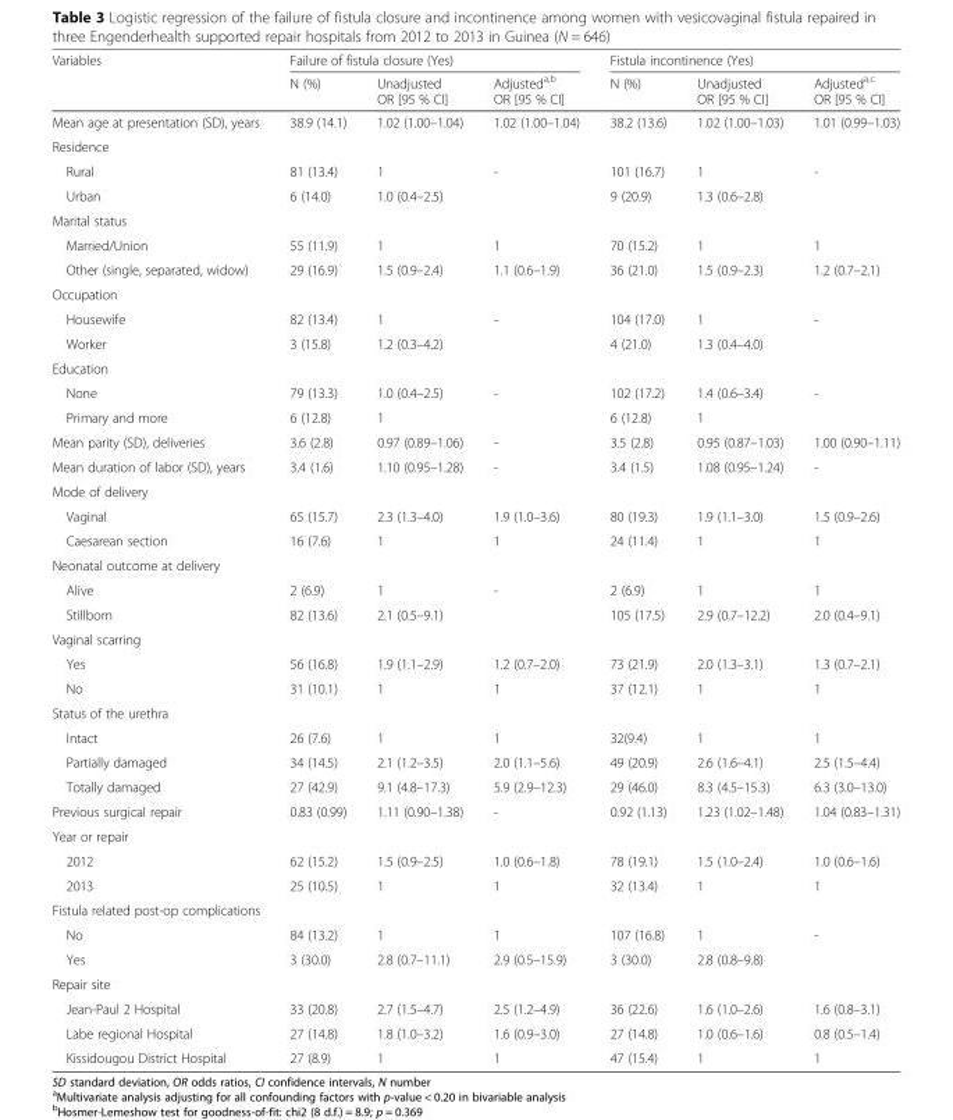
<table><thead><tr><td rowspan="2">Variables</td><td colspan="3">Failure of fistula closure (Yes)</td><td colspan="3">Fistula incontinence (Yes)</td></tr><tr><td>N (%)</td><td>Unadjusted OR [95 % CI]</td><td>Adjusted<sup>a,b</sup> OR [95 % CI]</td><td>N (%)</td><td>Unadjusted OR [95 % CI]</td><td>Adjusted<sup>a,c</sup> OR [95 % CI]</td></tr></thead><tbody><tr><td>Mean age at presentation (SD), years</td><td>38.9 (14.1)</td><td>1.02 (1.00–1.04)</td><td>1.02 (1.00–1.04)</td><td>38.2 (13.6)</td><td>1.02 (1.00–1.03)</td><td>1.01 (0.99–1.03)</td></tr><tr><td colspan="7">Residence</td></tr><tr><td>Rural</td><td>81 (13.4)</td><td>1</td><td rowspan="2">-</td><td>101 (16.7)</td><td>1</td><td rowspan="2">-</td></tr><tr><td>Urban</td><td>6 (14.0)</td><td>1.0 (0.4–2.5)</td><td>9 (20.9)</td><td>1.3 (0.6–2.8)</td></tr><tr><td colspan="7">Marital status</td></tr><tr><td>Married/Union</td><td>55 (11.9)</td><td>1</td><td>1</td><td>70 (15.2)</td><td>1</td><td>1</td></tr><tr><td>Other (single, separated, widow)</td><td>29 (16.9)</td><td>1.5 (0.9–2.4)</td><td>1.1 (0.6–1.9)</td><td>36 (21.0)</td><td>1.5 (0.9–2.3)</td><td>1.2 (0.7–2.1)</td></tr><tr><td colspan="7">Occupation</td></tr><tr><td>Housewife</td><td>82 (13.4)</td><td>1</td><td rowspan="2">-</td><td>104 (17.0)</td><td>1</td><td rowspan="2">-</td></tr><tr><td>Worker</td><td>3 (15.8)</td><td>1.2 (0.3–4.2)</td><td>4 (21.0)</td><td>1.3 (0.4–4.0)</td></tr><tr><td colspan="7">Education</td></tr><tr><td>None</td><td>79 (13.3)</td><td>1.0 (0.4–2.5)</td><td rowspan="2">-</td><td>102 (17.2)</td><td>1.4 (0.6–3.4)</td><td rowspan="2">-</td></tr><tr><td>Primary and more</td><td>6 (12.8)</td><td>1</td><td>6 (12.8)</td><td>1</td></tr><tr><td>Mean parity (SD), deliveries</td><td>3.6 (2.8)</td><td>0.97 (0.89–1.06)</td><td>-</td><td>3.5 (2.8)</td><td>0.95 (0.87–1.03)</td><td>1.00 (0.90–1.11)</td></tr><tr><td>Mean duration of labor (SD), years</td><td>3.4 (1.6)</td><td>1.10 (0.95–1.28)</td><td>-</td><td>3.4 (1.5)</td><td>1.08 (0.95–1.24)</td><td>-</td></tr><tr><td colspan="7">Mode of delivery</td></tr><tr><td>Vaginal</td><td>65 (15.7)</td><td>2.3 (1.3–4.0)</td><td>1.9 (1.0–3.6)</td><td>80 (19.3)</td><td>1.9 (1.1–3.0)</td><td>1.5 (0.9–2.6)</td></tr><tr><td>Caesarean section</td><td>16 (7.6)</td><td>1</td><td>1</td><td>24 (11.4)</td><td>1</td><td>1</td></tr><tr><td colspan="7">Neonatal outcome at delivery</td></tr><tr><td>Alive</td><td>2 (6.9)</td><td>1</td><td rowspan="2">-</td><td>2 (6.9)</td><td>1</td><td>1</td></tr><tr><td>Stillborn</td><td>82 (13.6)</td><td>2.1 (0.5–9.1)</td><td>105 (17.5)</td><td>2.9 (0.7–12.2)</td><td>2.0 (0.4–9.1)</td></tr><tr><td colspan="7">Vaginal scarring</td></tr><tr><td>Yes</td><td>56 (16.8)</td><td>1.9 (1.1–2.9)</td><td>1.2 (0.7–2.0)</td><td>73 (21.9)</td><td>2.0 (1.3–3.1)</td><td>1.3 (0.7–2.1)</td></tr><tr><td>No</td><td>31 (10.1)</td><td>1</td><td>1</td><td>37 (12.1)</td><td>1</td><td>1</td></tr><tr><td colspan="7">Status of the urethra</td></tr><tr><td>Intact</td><td>26 (7.6)</td><td>1</td><td>1</td><td>32(9.4)</td><td>1</td><td>1</td></tr><tr><td>Partially damaged</td><td>34 (14.5)</td><td>2.1 (1.2–3.5)</td><td>2.0 (1.1–5.6)</td><td>49 (20.9)</td><td>2.6 (1.6–4.1)</td><td>2.5 (1.5–4.4)</td></tr><tr><td>Totally damaged</td><td>27 (42.9)</td><td>9.1 (4.8–17.3)</td><td>5.9 (2.9–12.3)</td><td>29 (46.0)</td><td>8.3 (4.5–15.3)</td><td>6.3 (3.0–13.0)</td></tr><tr><td>Previous surgical repair</td><td>0.83 (0.99)</td><td>1.11 (0.90–1.38)</td><td>-</td><td>0.92 (1.13)</td><td>1.23 (1.02–1.48)</td><td>1.04 (0.83–1.31)</td></tr><tr><td colspan="7">Year or repair</td></tr><tr><td>2012</td><td>62 (15.2)</td><td>1.5 (0.9–2.5)</td><td>1.0 (0.6–1.8)</td><td>78 (19.1)</td><td>1.5 (1.0–2.4)</td><td>1.0 (0.6–1.6)</td></tr><tr><td>2013</td><td>25 (10.5)</td><td>1</td><td>1</td><td>32 (13.4)</td><td>1</td><td>1</td></tr><tr><td colspan="7">Fistula related post-op complications</td></tr><tr><td>No</td><td>84 (13.2)</td><td>1</td><td>1</td><td>107 (16.8)</td><td>1</td><td>-</td></tr><tr><td>Yes</td><td>3 (30.0)</td><td>2.8 (0.7–11.1)</td><td>2.9 (0.5–15.9)</td><td>3 (30.0)</td><td>2.8 (0.8–9.8)</td><td></td></tr><tr><td colspan="7">Repair site</td></tr><tr><td>Jean-Paul 2 Hospital</td><td>33 (20.8)</td><td>2.7 (1.5–4.7)</td><td>2.5 (1.2–4.9)</td><td>36 (22.6)</td><td>1.6 (1.0–2.6)</td><td>1.6 (0.8–3.1)</td></tr><tr><td>Labe regional Hospital</td><td>27 (14.8)</td><td>1.8 (1.0–3.2)</td><td>1.6 (0.9–3.0)</td><td>27 (14.8)</td><td>1.0 (0.6–1.6)</td><td>0.8 (0.5–1.4)</td></tr><tr><td>Kissidougou District Hospital</td><td>27 (8.9)</td><td>1</td><td>1</td><td>47 (15.4)</td><td>1</td><td>1</td></tr></tbody></table>